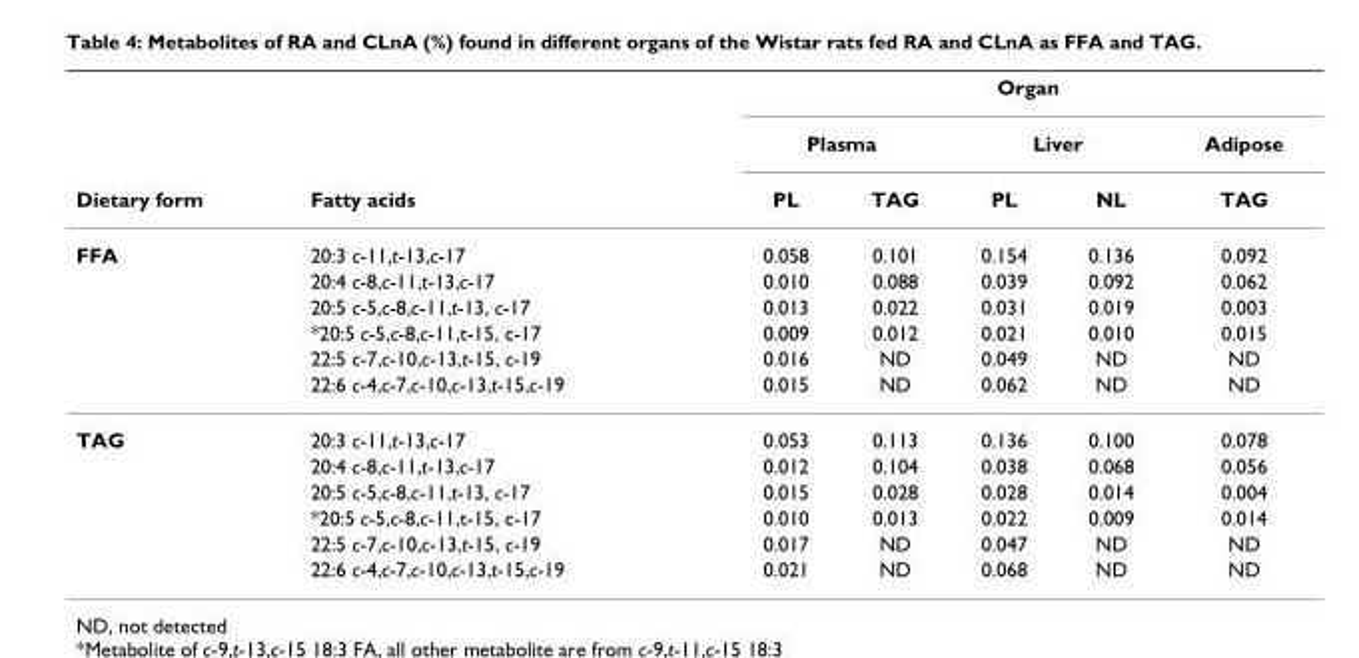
<table><thead><tr><td rowspan="3">Dietary form</td><td rowspan="3">Fatty acids</td><td colspan="5">Organ</td></tr><tr><td colspan="2">Plasma</td><td colspan="2">Liver</td><td rowspan="2">Adipose TAG</td></tr><tr><td>PL</td><td>TAG</td><td>PL</td><td>NL</td></tr></thead><tbody><tr><td rowspan="6">FFA</td><td>20:3 c-11,t-13,c-17</td><td>0.058</td><td>0.101</td><td>0.154</td><td>0.136</td><td>0.092</td></tr><tr><td>20:4 c-8,c-11,t-13,c-17</td><td>0.010</td><td>0.088</td><td>0.039</td><td>0.092</td><td>0.062</td></tr><tr><td>20:5 c-5,c-8,c-11,t-13, c-17</td><td>0.013</td><td>0.022</td><td>0.031</td><td>0.019</td><td>0.003</td></tr><tr><td>*20:5 c-5,c-8,c-11,t-15, c-17</td><td>0.009</td><td>0.012</td><td>0.021</td><td>0.010</td><td>0.015</td></tr><tr><td>22:5 c-7,c-10,c-13,t-15, c-19</td><td>0.016</td><td>ND</td><td>0.049</td><td>ND</td><td>ND</td></tr><tr><td>22:6 c-4,c-7,c-10,c-13,t-15,c-19</td><td>0.015</td><td>ND</td><td>0.062</td><td>ND</td><td>ND</td></tr><tr><td rowspan="6">TAG</td><td>20:3 c-11,t-13,c-17</td><td>0.053</td><td>0.113</td><td>0.136</td><td>0.100</td><td>0.078</td></tr><tr><td>20:4 c-8,c-11,t-13,c-17</td><td>0.012</td><td>0.104</td><td>0.038</td><td>0.068</td><td>0.056</td></tr><tr><td>20:5 c-5,c-8,c-11,t-13, c-17</td><td>0.015</td><td>0.028</td><td>0.028</td><td>0.014</td><td>0.004</td></tr><tr><td>*20:5 c-5,c-8,c-11,t-15, c-17</td><td>0.010</td><td>0.013</td><td>0.022</td><td>0.009</td><td>0.014</td></tr><tr><td>22:5 c-7,c-10,c-13,t-15, c-19</td><td>0.017</td><td>ND</td><td>0.047</td><td>ND</td><td>ND</td></tr><tr><td>22:6 c-4,c-7,c-10,c-13,t-15,c-19</td><td>0.021</td><td>ND</td><td>0.068</td><td>ND</td><td>ND</td></tr></tbody></table>